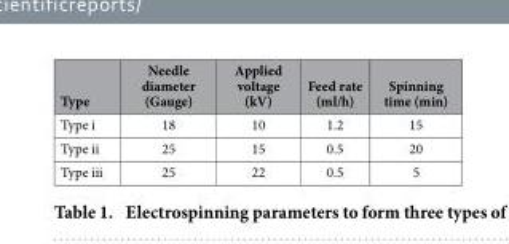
<table><thead><tr><td>Type</td><td>Needle diameter (Gauge)</td><td>Applied voltage (kV)</td><td>Feed rate (ml/h)</td><td>Spinning time (min)</td></tr></thead><tbody><tr><td>Type i</td><td>18</td><td>10</td><td>1.2</td><td>15</td></tr><tr><td>Type ii</td><td>25</td><td>15</td><td>0.5</td><td>20</td></tr><tr><td>Type iii</td><td>25</td><td>22</td><td>0.5</td><td>5</td></tr></tbody></table>